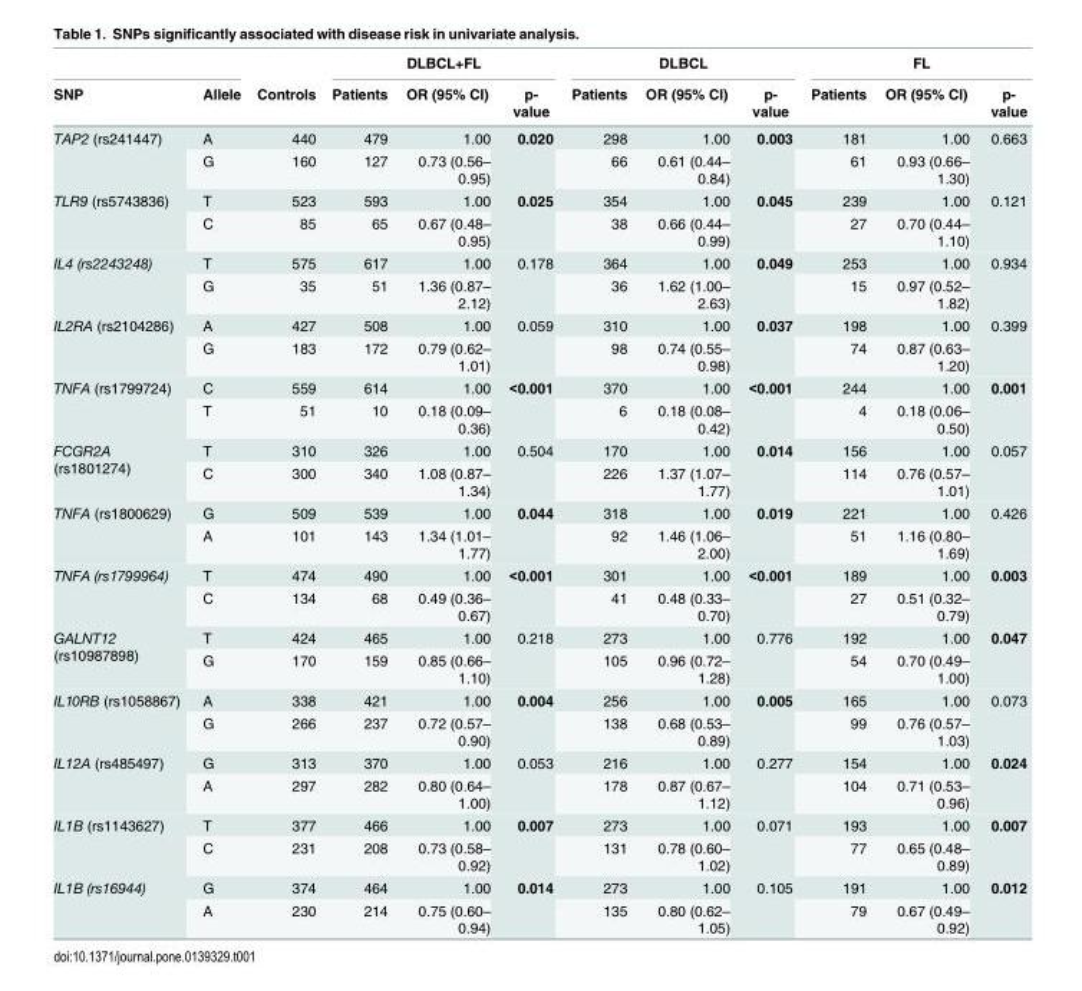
<table><thead><tr><td rowspan="2">SNP</td><td rowspan="2">Allele</td><td rowspan="2">Controls</td><td colspan="3">DLBCL+FL</td><td colspan="3">DLBCL</td><td colspan="3">FL</td></tr><tr><td>Patients</td><td>OR (95% CI)</td><td>p- value</td><td>Patients</td><td>OR (95% CI)</td><td>p- value</td><td>Patients</td><td>OR (95% CI)</td><td>p- value</td></tr></thead><tbody><tr><td rowspan="2">TAP2 (rs241447)</td><td>A</td><td>440</td><td>479</td><td>1.00</td><td rowspan="2">0.020</td><td>298</td><td>1.00</td><td rowspan="2">0.003</td><td>181</td><td>1.00</td><td rowspan="2">0.663</td></tr><tr><td>G</td><td>160</td><td>127</td><td>0.73 (0.56– 0.95)</td><td>66</td><td>0.61 (0.44– 0.84)</td><td>61</td><td>0.93 (0.66– 1.30)</td></tr><tr><td rowspan="2">TLR9 (rs5743836)</td><td>T</td><td>523</td><td>593</td><td>1.00</td><td rowspan="2">0.025</td><td>354</td><td>1.00</td><td rowspan="2">0.045</td><td>239</td><td>1.00</td><td rowspan="2">0.121</td></tr><tr><td>C</td><td>85</td><td>65</td><td>0.67 (0.48– 0.95)</td><td>38</td><td>0.66 (0.44– 0.99)</td><td>27</td><td>0.70 (0.44– 1.10)</td></tr><tr><td rowspan="2">IL4 (rs2243248)</td><td>T</td><td>575</td><td>617</td><td>1.00</td><td rowspan="2">0.178</td><td>364</td><td>1.00</td><td rowspan="2">0.049</td><td>253</td><td>1.00</td><td rowspan="2">0.934</td></tr><tr><td>G</td><td>35</td><td>51</td><td>1.36 (0.87– 2.12)</td><td>36</td><td>1.62 (1.00– 2.63)</td><td>15</td><td>0.97 (0.52– 1.82)</td></tr><tr><td rowspan="2">IL2RA (rs2104286)</td><td>A</td><td>427</td><td>508</td><td>1.00</td><td rowspan="2">0.059</td><td>310</td><td>1.00</td><td rowspan="2">0.037</td><td>198</td><td>1.00</td><td rowspan="2">0.399</td></tr><tr><td>G</td><td>183</td><td>172</td><td>0.79 (0.62– 1.01)</td><td>98</td><td>0.74 (0.55– 0.98)</td><td>74</td><td>0.87 (0.63– 1.20)</td></tr><tr><td rowspan="2">TNFA (rs1799724)</td><td>C</td><td>559</td><td>614</td><td>1.00</td><td rowspan="2">&lt;0.001</td><td>370</td><td>1.00</td><td rowspan="2">&lt;0.001</td><td>244</td><td>1.00</td><td rowspan="2">0.001</td></tr><tr><td>T</td><td>51</td><td>10</td><td>0.18 (0.09– 0.36)</td><td>6</td><td>0.18 (0.08– 0.42)</td><td>4</td><td>0.18 (0.06– 0.50)</td></tr><tr><td rowspan="2">FCGR2A (rs1801274)</td><td>T</td><td>310</td><td>326</td><td>1.00</td><td rowspan="2">0.504</td><td>170</td><td>1.00</td><td rowspan="2">0.014</td><td>156</td><td>1.00</td><td rowspan="2">0.057</td></tr><tr><td>C</td><td>300</td><td>340</td><td>1.08 (0.87– 1.34)</td><td>226</td><td>1.37 (1.07– 1.77)</td><td>114</td><td>0.76 (0.57– 1.01)</td></tr><tr><td rowspan="2">TNFA (rs1800629)</td><td>G</td><td>509</td><td>539</td><td>1.00</td><td rowspan="2">0.044</td><td>318</td><td>1.00</td><td rowspan="2">0.019</td><td>221</td><td>1.00</td><td rowspan="2">0.426</td></tr><tr><td>A</td><td>101</td><td>143</td><td>1.34 (1.01– 1.77)</td><td>92</td><td>1.46 (1.06– 2.00)</td><td>51</td><td>1.16 (0.80– 1.69)</td></tr><tr><td rowspan="2">TNFA (rs1799964)</td><td>T</td><td>474</td><td>490</td><td>1.00</td><td rowspan="2">&lt;0.001</td><td>301</td><td>1.00</td><td rowspan="2">&lt;0.001</td><td>189</td><td>1.00</td><td rowspan="2">0.003</td></tr><tr><td>C</td><td>134</td><td>68</td><td>0.49 (0.36– 0.67)</td><td>41</td><td>0.48 (0.33– 0.70)</td><td>27</td><td>0.51 (0.32– 0.79)</td></tr><tr><td rowspan="2">GALNT12 (rs10987898)</td><td>T</td><td>424</td><td>465</td><td>1.00</td><td rowspan="2">0.218</td><td>273</td><td>1.00</td><td rowspan="2">0.776</td><td>192</td><td>1.00</td><td rowspan="2">0.047</td></tr><tr><td>G</td><td>170</td><td>159</td><td>0.85 (0.66– 1.10)</td><td>105</td><td>0.96 (0.72– 1.28)</td><td>54</td><td>0.70 (0.49– 1.00)</td></tr><tr><td rowspan="2">IL10RB (rs1058867)</td><td>A</td><td>338</td><td>421</td><td>1.00</td><td rowspan="2">0.004</td><td>256</td><td>1.00</td><td rowspan="2">0.005</td><td>165</td><td>1.00</td><td rowspan="2">0.073</td></tr><tr><td>G</td><td>266</td><td>237</td><td>0.72 (0.57– 0.90)</td><td>138</td><td>0.68 (0.53– 0.89)</td><td>99</td><td>0.76 (0.57– 1.03)</td></tr><tr><td rowspan="2">IL12A (rs485497)</td><td>G</td><td>313</td><td>370</td><td>1.00</td><td rowspan="2">0.053</td><td>216</td><td>1.00</td><td rowspan="2">0.277</td><td>154</td><td>1.00</td><td rowspan="2">0.024</td></tr><tr><td>A</td><td>297</td><td>282</td><td>0.80 (0.64– 1.00)</td><td>178</td><td>0.87 (0.67– 1.12)</td><td>104</td><td>0.71 (0.53– 0.96)</td></tr><tr><td rowspan="2">IL1B (rs1143627)</td><td>T</td><td>377</td><td>466</td><td>1.00</td><td rowspan="2">0.007</td><td>273</td><td>1.00</td><td rowspan="2">0.071</td><td>193</td><td>1.00</td><td rowspan="2">0.007</td></tr><tr><td>C</td><td>231</td><td>208</td><td>0.73 (0.58– 0.92)</td><td>131</td><td>0.78 (0.60– 1.02)</td><td>77</td><td>0.65 (0.48– 0.89)</td></tr><tr><td rowspan="2">IL1B (rs16944)</td><td>G</td><td>374</td><td>464</td><td>1.00</td><td rowspan="2">0.014</td><td>273</td><td>1.00</td><td rowspan="2">0.105</td><td>191</td><td>1.00</td><td rowspan="2">0.012</td></tr><tr><td>A</td><td>230</td><td>214</td><td>0.75 (0.60– 0.94)</td><td>135</td><td>0.80 (0.62– 1.05)</td><td>79</td><td>0.67 (0.49– 0.92)</td></tr></tbody></table>